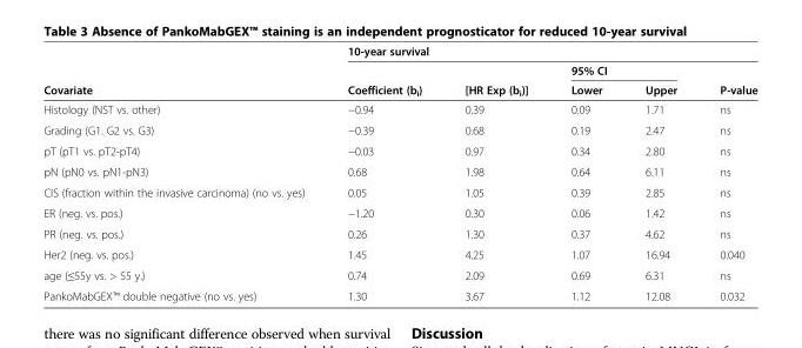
<table><thead><tr><td rowspan="3">Covariate</td><td colspan="5">10-year survival</td></tr><tr><td rowspan="2">Coefficient (b<sub>i</sub>)</td><td rowspan="2">[HR Exp (b<sub>i</sub>)]</td><td colspan="2">95% CI</td><td rowspan="2">P-value</td></tr><tr><td>Lower</td><td>Upper</td></tr></thead><tbody><tr><td>Histology (NST vs. other)</td><td>−0.94</td><td>0.39</td><td>0.09</td><td>1.71</td><td>ns</td></tr><tr><td>Grading (G1. G2 vs. G3)</td><td>−0.39</td><td>0.68</td><td>0.19</td><td>2.47</td><td>ns</td></tr><tr><td>pT (pT1 vs. pT2-pT4)</td><td>−0.03</td><td>0.97</td><td>0.34</td><td>2.80</td><td>ns</td></tr><tr><td>pN (pN0 vs. pN1-pN3)</td><td>0.68</td><td>1.98</td><td>0.64</td><td>6.11</td><td>ns</td></tr><tr><td>CIS (fraction within the invasive carcinoma) (no vs. yes)</td><td>0.05</td><td>1.05</td><td>0.39</td><td>2.85</td><td>ns</td></tr><tr><td>ER (neg. vs. pos.)</td><td>−1.20</td><td>0.30</td><td>0.06</td><td>1.42</td><td>ns</td></tr><tr><td>PR (neg. vs. pos.)</td><td>0.26</td><td>1.30</td><td>0.37</td><td>4.62</td><td>ns</td></tr><tr><td>Her2 (neg. vs. pos.)</td><td>1.45</td><td>4.25</td><td>1.07</td><td>16.94</td><td>0.040</td></tr><tr><td>age (≤55y vs. &gt; 55 y.)</td><td>0.74</td><td>2.09</td><td>0.69</td><td>6.31</td><td>ns</td></tr><tr><td>PankoMabGEX™ double negative (no vs. yes)</td><td>1.30</td><td>3.67</td><td>1.12</td><td>12.08</td><td>0.032</td></tr></tbody></table>